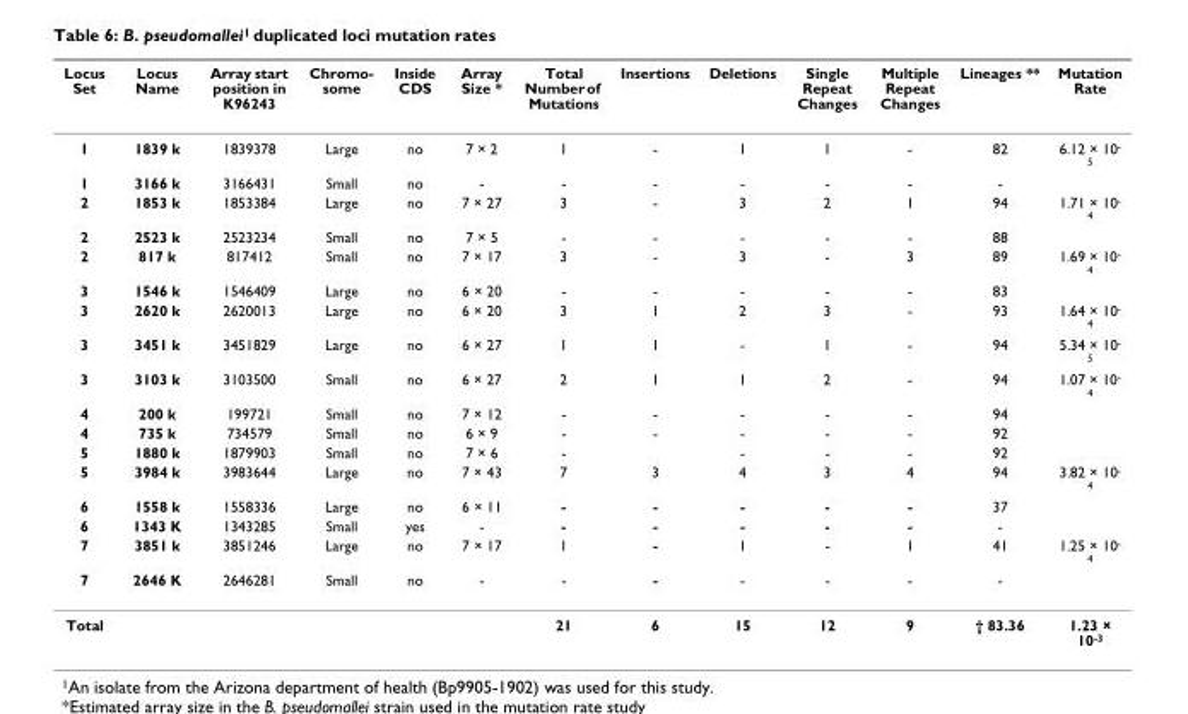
<table><thead><tr><td>Locus Set</td><td>Locus Name</td><td>Array start position in K96243</td><td>Chromo- some</td><td>Inside CDS</td><td>Array Size *</td><td>Total Number of Mutations</td><td>Insertions</td><td>Deletions</td><td>Single Repeat Changes</td><td>Multiple Repeat Changes</td><td>Lineages **</td><td>Mutation Rate</td></tr></thead><tbody><tr><td>1</td><td>1839 k</td><td>1839378</td><td>Large</td><td>no</td><td>7 × 2</td><td>1</td><td>-</td><td>1</td><td>1</td><td>-</td><td>82</td><td>6.12 × 10- 5</td></tr><tr><td>1</td><td>3166 k</td><td>3166431</td><td>Small</td><td>no</td><td>-</td><td>-</td><td>-</td><td>-</td><td>-</td><td>-</td><td>-</td><td></td></tr><tr><td>2</td><td>1853 k</td><td>1853384</td><td>Large</td><td>no</td><td>7 × 27</td><td>3</td><td>-</td><td>3</td><td>2</td><td>1</td><td>94</td><td>1.71 × 10- 4</td></tr><tr><td>2</td><td>2523 k</td><td>2523234</td><td>Small</td><td>no</td><td>7 × 5</td><td>-</td><td>-</td><td>-</td><td>-</td><td>-</td><td>88</td><td></td></tr><tr><td>2</td><td>817 k</td><td>817412</td><td>Small</td><td>no</td><td>7 × 17</td><td>3</td><td>-</td><td>3</td><td>-</td><td>3</td><td>89</td><td>1.69 × 10- 4</td></tr><tr><td>3</td><td>1546 k</td><td>1546409</td><td>Large</td><td>no</td><td>6 × 20</td><td>-</td><td>-</td><td>-</td><td>-</td><td>-</td><td>83</td><td></td></tr><tr><td>3</td><td>2620 k</td><td>2620013</td><td>Large</td><td>no</td><td>6 × 20</td><td>3</td><td>1</td><td>2</td><td>3</td><td>-</td><td>93</td><td>1.64 × 10- 4</td></tr><tr><td>3</td><td>3451 k</td><td>3451829</td><td>Large</td><td>no</td><td>6 × 27</td><td>1</td><td>1</td><td>-</td><td>1</td><td>-</td><td>94</td><td>5.34 × 10- 5</td></tr><tr><td>3</td><td>3103 k</td><td>3103500</td><td>Small</td><td>no</td><td>6 × 27</td><td>2</td><td>1</td><td>1</td><td>2</td><td>-</td><td>94</td><td>1.07 × 10- 4</td></tr><tr><td>4</td><td>200 k</td><td>199721</td><td>Small</td><td>no</td><td>7 × 12</td><td>-</td><td>-</td><td>-</td><td>-</td><td>-</td><td>94</td><td></td></tr><tr><td>4</td><td>735 k</td><td>734579</td><td>Small</td><td>no</td><td>6 × 9</td><td>-</td><td>-</td><td>-</td><td>-</td><td>-</td><td>92</td><td></td></tr><tr><td>5</td><td>1880 k</td><td>1879903</td><td>Small</td><td>no</td><td>7 × 6</td><td>-</td><td></td><td>-</td><td>-</td><td>-</td><td>92</td><td></td></tr><tr><td>5</td><td>3984 k</td><td>3983644</td><td>Large</td><td>no</td><td>7 × 43</td><td>7</td><td>3</td><td>4</td><td>3</td><td>4</td><td>94</td><td>3.82 × 10- 4</td></tr><tr><td>6</td><td>1558 k</td><td>1558336</td><td>Large</td><td>no</td><td>6 × 11</td><td>-</td><td>-</td><td>-</td><td>-</td><td>-</td><td>37</td><td></td></tr><tr><td>6</td><td>1343 K</td><td>1343285</td><td>Small</td><td>yes</td><td>-</td><td>-</td><td>-</td><td>-</td><td>-</td><td>-</td><td>-</td><td></td></tr><tr><td>7</td><td>3851 k</td><td>3851246</td><td>Large</td><td>no</td><td>7 × 17</td><td>1</td><td>-</td><td>1</td><td>-</td><td>1</td><td>41</td><td>1.25 × 10- 4</td></tr><tr><td>7</td><td>2646 K</td><td>2646281</td><td>Small</td><td>no</td><td>-</td><td>-</td><td>-</td><td>-</td><td>-</td><td>-</td><td>-</td><td></td></tr><tr><td>Total</td><td></td><td></td><td></td><td></td><td></td><td>21</td><td>6</td><td>15</td><td>12</td><td>9</td><td>† 83.36</td><td>1.23 × 10-3</td></tr></tbody></table>